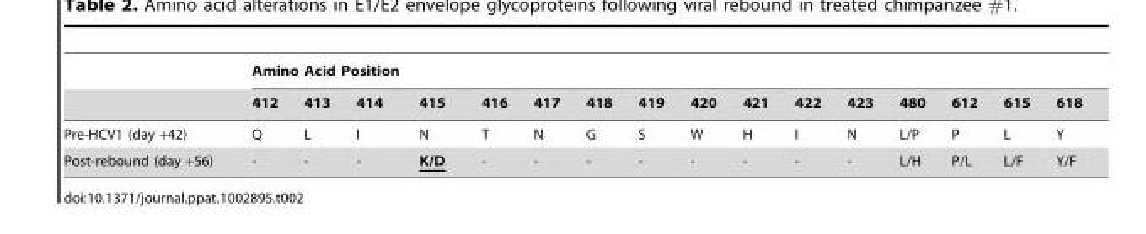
<table><thead><tr><td rowspan="2"></td><td colspan="16">Amino Acid Position</td></tr><tr><td>412</td><td>413</td><td>414</td><td>415</td><td>416</td><td>417</td><td>418</td><td>419</td><td>420</td><td>421</td><td>422</td><td>423</td><td>480</td><td>612</td><td>615</td><td>618</td></tr></thead><tbody><tr><td>Pre-HCV1 (day +42)</td><td>Q</td><td>L</td><td>I</td><td>N</td><td>T</td><td>N</td><td>G</td><td>S</td><td>W</td><td>H</td><td>I</td><td>N</td><td>L/P</td><td>P</td><td>L</td><td>Y</td></tr><tr><td>Post-rebound (day +56)</td><td>-</td><td>-</td><td>-</td><td>K/D</td><td>-</td><td>-</td><td>-</td><td>-</td><td>-</td><td>-</td><td>-</td><td>-</td><td>L/H</td><td>P/L</td><td>L/F</td><td>Y/F</td></tr></tbody></table>